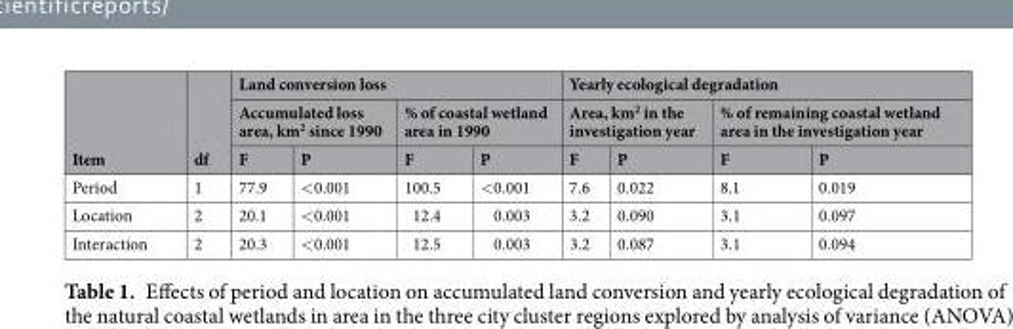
<table><thead><tr><td rowspan="3">Item</td><td rowspan="3">df</td><td colspan="4">Land conversion loss</td><td colspan="4">Yearly ecological degradation</td></tr><tr><td colspan="2">Accumulated loss area, km<sup>2</sup> since 1990</td><td colspan="2">% of coastal wetland area in 1990</td><td colspan="2">Area, km<sup>2</sup> in the investigation year</td><td colspan="2">% of remaining coastal wetland area in the investigation year</td></tr><tr><td>F</td><td>P</td><td>F</td><td>P</td><td>F</td><td>P</td><td>F</td><td>P</td></tr></thead><tbody><tr><td>Period</td><td>1</td><td>77.9</td><td>&lt;0.001</td><td>100.5</td><td>&lt;0.001</td><td>7.6</td><td>0.022</td><td>8.1</td><td>0.019</td></tr><tr><td>Location</td><td>2</td><td>20.1</td><td>&lt;0.001</td><td>12.4</td><td>0.003</td><td>3.2</td><td>0.090</td><td>3.1</td><td>0.097</td></tr><tr><td>Interaction</td><td>2</td><td>20.3</td><td>&lt;0.001</td><td>12.5</td><td>0.003</td><td>3.2</td><td>0.087</td><td>3.1</td><td>0.094</td></tr></tbody></table>